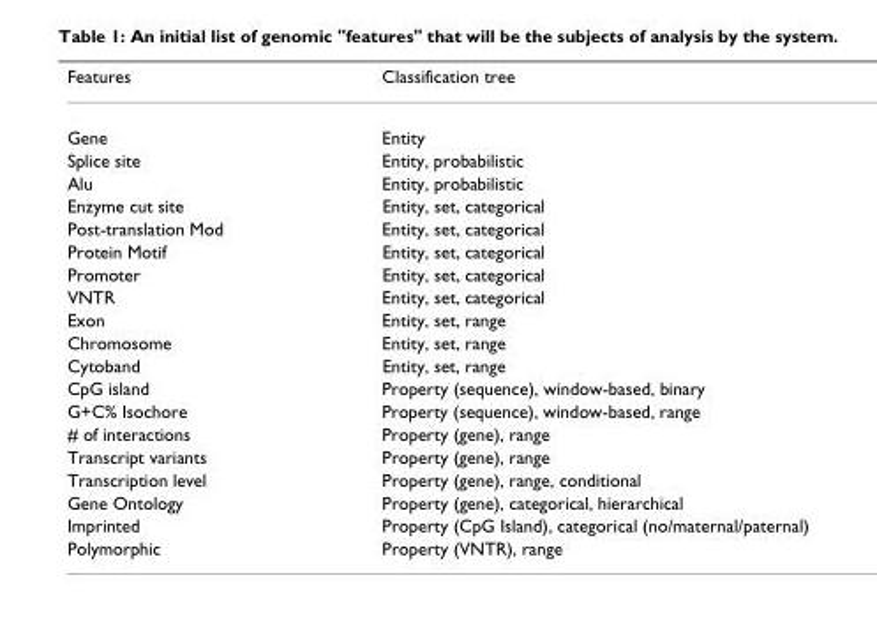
<table><thead><tr><td>Features</td><td>Classification tree</td></tr></thead><tbody><tr><td>Gene</td><td>Entity</td></tr><tr><td>Splice site</td><td>Entity, probabilistic</td></tr><tr><td>Alu</td><td>Entity, probabilistic</td></tr><tr><td>Enzyme cut site</td><td>Entity, set, categorical</td></tr><tr><td>Post-translation Mod</td><td>Entity, set, categorical</td></tr><tr><td>Protein Motif</td><td>Entity, set, categorical</td></tr><tr><td>Promoter</td><td>Entity, set, categorical</td></tr><tr><td>VNTR</td><td>Entity, set, categorical</td></tr><tr><td>Exon</td><td>Entity, set, range</td></tr><tr><td>Chromosome</td><td>Entity, set, range</td></tr><tr><td>Cytoband</td><td>Entity, set, range</td></tr><tr><td>CpG island</td><td>Property (sequence), window-based, binary</td></tr><tr><td>G+C% Isochore</td><td>Property (sequence), window-based, range</td></tr><tr><td># of interactions</td><td>Property (gene), range</td></tr><tr><td>Transcript variants</td><td>Property (gene), range</td></tr><tr><td>Transcription level</td><td>Property (gene), range, conditional</td></tr><tr><td>Gene Ontology</td><td>Property (gene), categorical, hierarchical</td></tr><tr><td>Imprinted</td><td>Property (CpG Island), categorical (no/maternal/paternal)</td></tr><tr><td>Polymorphic</td><td>Property (VNTR), range</td></tr></tbody></table>